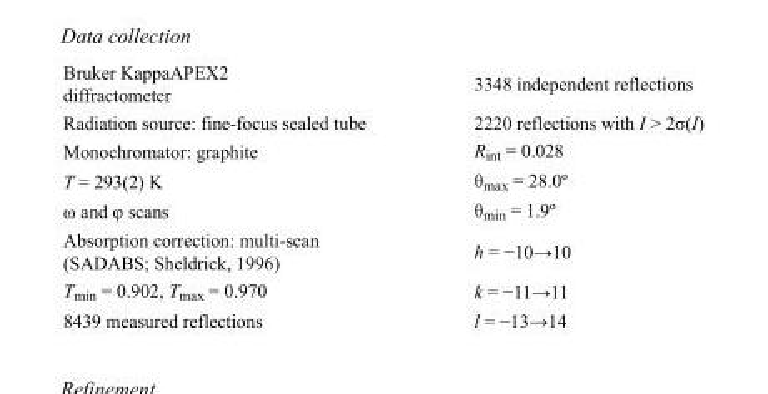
<table><tbody><tr><td>Bruker KappaAPEX2 diffractometer</td><td>3348 independent reflections</td></tr><tr><td>Radiation source: fine-focus sealed tube</td><td>2220 reflections with I &gt; 2σ(I)</td></tr><tr><td>Monochromator: graphite</td><td>R<sub>int</sub> = 0.028</td></tr><tr><td>T = 293(2) K</td><td>θ<sub>max</sub> = 28.0º</td></tr><tr><td>ω and φ scans</td><td>θ<sub>min</sub> = 1.9º</td></tr><tr><td>Absorption correction: multi-scan (SADABS; Sheldrick, 1996)</td><td>h = −10→10</td></tr><tr><td>T<sub>min</sub> = 0.902, T<sub>max</sub> = 0.970</td><td>k = −11→11</td></tr><tr><td>8439 measured reflections</td><td>l = −13→14</td></tr></tbody></table>